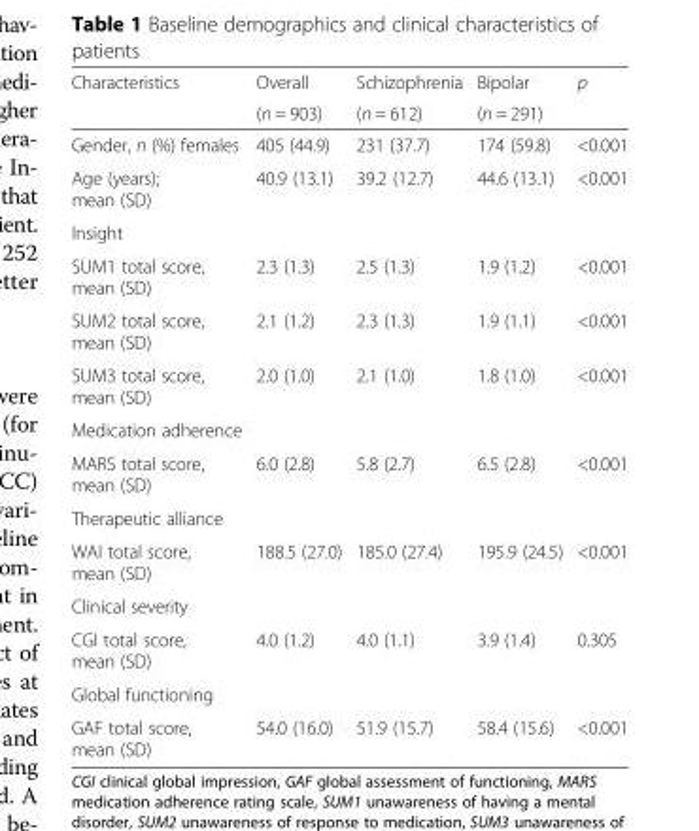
<table><thead><tr><td rowspan="2">Characteristics</td><td rowspan="2">Overall (n = 903)</td><td rowspan="2">Schizophrenia (n = 612)</td><td rowspan="2">Bipolar (n = 291)</td><td rowspan="2">p</td></tr><tr></tr></thead><tbody><tr><td>Gender, n (%) females</td><td>405 (44.9)</td><td>231 (37.7)</td><td>174 (59.8)</td><td>&lt;0.001</td></tr><tr><td>Age (years); mean (SD)</td><td>40.9 (13.1)</td><td>39.2 (12.7)</td><td>44.6 (13.1)</td><td>&lt;0.001</td></tr><tr><td colspan="5">Insight</td></tr><tr><td>SUM1 total score, mean (SD)</td><td>2.3 (1.3)</td><td>2.5 (1.3)</td><td>1.9 (1.2)</td><td>&lt;0.001</td></tr><tr><td>SUM2 total score, mean (SD)</td><td>2.1 (1.2)</td><td>2.3 (1.3)</td><td>1.9 (1.1)</td><td>&lt;0.001</td></tr><tr><td>SUM3 total score, mean (SD)</td><td>2.0 (1.0)</td><td>2.1 (1.0)</td><td>1.8 (1.0)</td><td>&lt;0.001</td></tr><tr><td colspan="5">Medication adherence</td></tr><tr><td>MARS total score, mean (SD)</td><td>6.0 (2.8)</td><td>5.8 (2.7)</td><td>6.5 (2.8)</td><td>&lt;0.001</td></tr><tr><td colspan="5">Therapeutic alliance</td></tr><tr><td>WAI total score, mean (SD)</td><td>188.5 (27.0)</td><td>185.0 (27.4)</td><td>195.9 (24.5)</td><td>&lt;0.001</td></tr><tr><td colspan="5">Clinical severity</td></tr><tr><td>CGI total score, mean (SD)</td><td>4.0 (1.2)</td><td>4.0 (1.1)</td><td>3.9 (1.4)</td><td>0.305</td></tr><tr><td colspan="5">Global functioning</td></tr><tr><td>GAF total score, mean (SD)</td><td>54.0 (16.0)</td><td>51.9 (15.7)</td><td>58.4 (15.6)</td><td>&lt;0.001</td></tr></tbody></table>